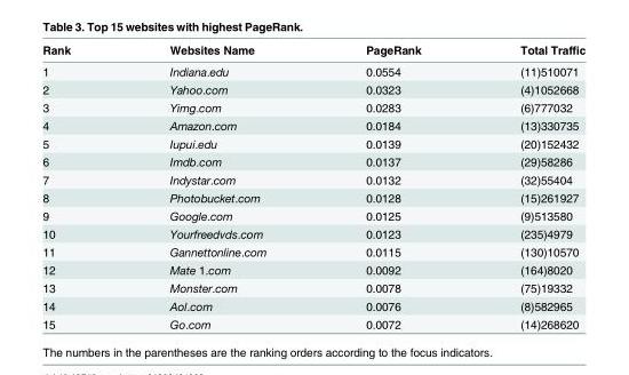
<table><thead><tr><td>Rank</td><td>Websites Name</td><td>PageRank</td><td>Total Traffic</td></tr></thead><tbody><tr><td>1</td><td>Indiana.edu</td><td>0.0554</td><td>(11)510071</td></tr><tr><td>2</td><td>Yahoo.com</td><td>0.0323</td><td>(4)1052668</td></tr><tr><td>3</td><td>Yimg.com</td><td>0.0283</td><td>(6)777032</td></tr><tr><td>4</td><td>Amazon.com</td><td>0.0184</td><td>(13)330735</td></tr><tr><td>5</td><td>Iupui.edu</td><td>0.0139</td><td>(20)152432</td></tr><tr><td>6</td><td>Imdb.com</td><td>0.0137</td><td>(29)58286</td></tr><tr><td>7</td><td>Indystar.com</td><td>0.0132</td><td>(32)55404</td></tr><tr><td>8</td><td>Photobucket.com</td><td>0.0128</td><td>(15)261927</td></tr><tr><td>9</td><td>Google.com</td><td>0.0125</td><td>(9)513580</td></tr><tr><td>10</td><td>Yourfreedvds.com</td><td>0.0123</td><td>(235)4979</td></tr><tr><td>11</td><td>Gannettonline.com</td><td>0.0115</td><td>(130)10570</td></tr><tr><td>12</td><td>Mate 1.com</td><td>0.0092</td><td>(164)8020</td></tr><tr><td>13</td><td>Monster.com</td><td>0.0078</td><td>(75)19332</td></tr><tr><td>14</td><td>Aol.com</td><td>0.0076</td><td>(8)582965</td></tr><tr><td>15</td><td>Go.com</td><td>0.0072</td><td>(14)268620</td></tr></tbody></table>